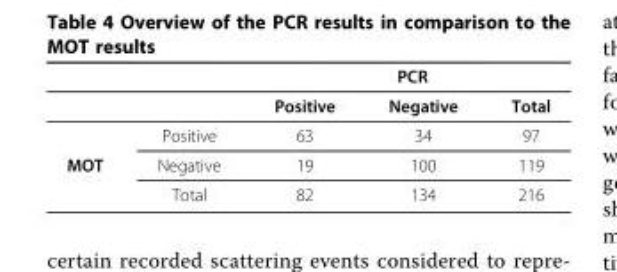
<table><thead><tr><td rowspan="2"></td><td rowspan="2"></td><td colspan="3">PCR</td></tr><tr><td>Positive</td><td>Negative</td><td>Total</td></tr></thead><tbody><tr><td></td><td>Positive</td><td>63</td><td>34</td><td>97</td></tr><tr><td rowspan="2">MOT</td><td>Negative</td><td>19</td><td>100</td><td>119</td></tr><tr><td>Total</td><td>82</td><td>134</td><td>216</td></tr></tbody></table>